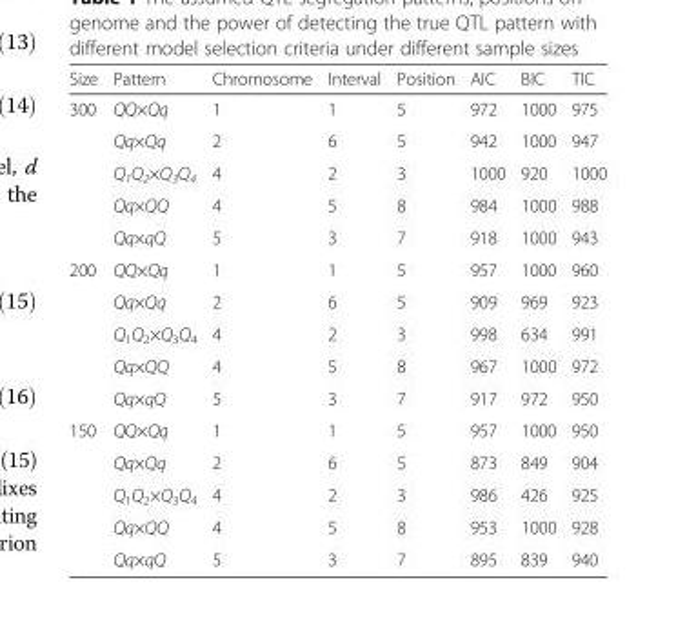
<table><thead><tr><td>Size</td><td>Pattern</td><td>Chromosome</td><td>Interval</td><td>Position</td><td>AIC</td><td>BIC</td><td>TIC</td></tr></thead><tbody><tr><td rowspan="5">300</td><td>QQ×Qq</td><td>1</td><td>1</td><td>5</td><td>972</td><td>1000</td><td>975</td></tr><tr><td>Qq×Qq</td><td>2</td><td>6</td><td>5</td><td>942</td><td>1000</td><td>947</td></tr><tr><td>Q<sub>1</sub>Q<sub>2</sub>×Q<sub>3</sub>Q<sub>4</sub></td><td>4</td><td>2</td><td>3</td><td>1000</td><td>920</td><td>1000</td></tr><tr><td>Qq×QQ</td><td>4</td><td>5</td><td>8</td><td>984</td><td>1000</td><td>988</td></tr><tr><td>Qq×qQ</td><td>5</td><td>3</td><td>7</td><td>918</td><td>1000</td><td>943</td></tr><tr><td rowspan="5">200</td><td>QQ×Qq</td><td>1</td><td>1</td><td>5</td><td>957</td><td>1000</td><td>960</td></tr><tr><td>Qq×Qq</td><td>2</td><td>6</td><td>5</td><td>909</td><td>969</td><td>923</td></tr><tr><td>Q<sub>1</sub>Q<sub>2</sub>×Q<sub>3</sub>Q<sub>4</sub></td><td>4</td><td>2</td><td>3</td><td>998</td><td>634</td><td>991</td></tr><tr><td>Qq×QQ</td><td>4</td><td>5</td><td>8</td><td>967</td><td>1000</td><td>972</td></tr><tr><td>Qq×qQ</td><td>5</td><td>3</td><td>7</td><td>917</td><td>972</td><td>950</td></tr><tr><td rowspan="5">150</td><td>QQ×Qq</td><td>1</td><td>1</td><td>5</td><td>957</td><td>1000</td><td>950</td></tr><tr><td>Qq×Qq</td><td>2</td><td>6</td><td>5</td><td>873</td><td>849</td><td>904</td></tr><tr><td>Q<sub>1</sub>Q<sub>2</sub>×Q<sub>3</sub>Q<sub>4</sub></td><td>4</td><td>2</td><td>3</td><td>986</td><td>426</td><td>925</td></tr><tr><td>Qq×QQ</td><td>4</td><td>5</td><td>8</td><td>953</td><td>1000</td><td>928</td></tr><tr><td>Qq×qQ</td><td>5</td><td>3</td><td>7</td><td>895</td><td>839</td><td>940</td></tr></tbody></table>